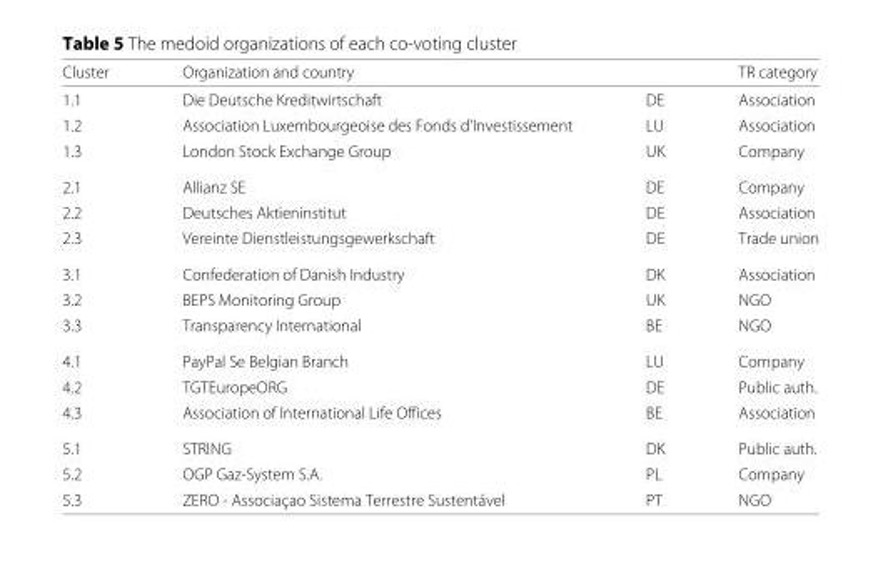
<table><thead><tr><td>Cluster</td><td>Organization and country</td><td></td><td>TR category</td></tr></thead><tbody><tr><td>1.1</td><td>Die Deutsche Kreditwirtschaft</td><td>DE</td><td>Association</td></tr><tr><td>1.2</td><td>Association Luxembourgeoise des Fonds d’Investissement</td><td>LU</td><td>Association</td></tr><tr><td>1.3</td><td>London Stock Exchange Group</td><td>UK</td><td>Company</td></tr><tr><td>2.1</td><td>Allianz SE</td><td>DE</td><td>Company</td></tr><tr><td>2.2</td><td>Deutsches Aktieninstitut</td><td>DE</td><td>Association</td></tr><tr><td>2.3</td><td>Vereinte Dienstleistungsgewerkschaft</td><td>DE</td><td>Trade union</td></tr><tr><td>3.1</td><td>Confederation of Danish Industry</td><td>DK</td><td>Association</td></tr><tr><td>3.2</td><td>BEPS Monitoring Group</td><td>UK</td><td>NGO</td></tr><tr><td>3.3</td><td>Transparency International</td><td>BE</td><td>NGO</td></tr><tr><td>4.1</td><td>PayPal Se Belgian Branch</td><td>LU</td><td>Company</td></tr><tr><td>4.2</td><td>TGTEuropeORG</td><td>DE</td><td>Public auth.</td></tr><tr><td>4.3</td><td>Association of International Life Offices</td><td>BE</td><td>Association</td></tr><tr><td>5.1</td><td>STRING</td><td>DK</td><td>Public auth.</td></tr><tr><td>5.2</td><td>OGP Gaz-System S.A.</td><td>PL</td><td>Company</td></tr><tr><td>5.3</td><td>ZERO - Associaçao Sistema Terrestre Sustentável</td><td>PT</td><td>NGO</td></tr></tbody></table>